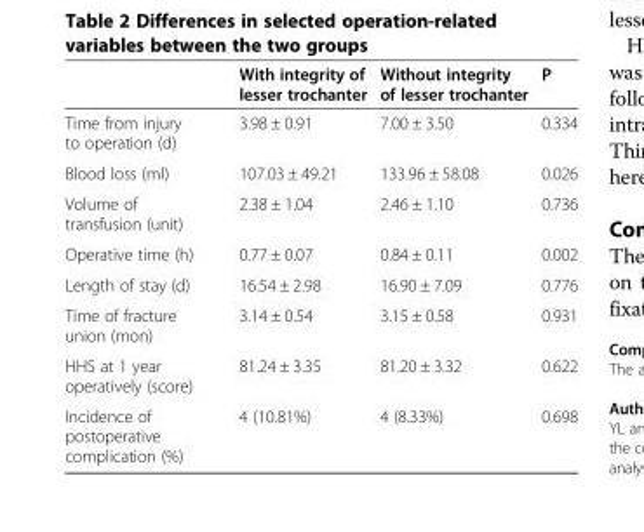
<table><thead><tr><td></td><td>With integrity of lesser trochanter</td><td>Without integrity of lesser trochanter</td><td>P</td></tr></thead><tbody><tr><td>Time from injury to operation (d)</td><td>3.98 ± 0.91</td><td>7.00 ± 3.50</td><td>0.334</td></tr><tr><td>Blood loss (ml)</td><td>107.03 ± 49.21</td><td>133.96 ± 58.08</td><td>0.026</td></tr><tr><td>Volume of transfusion (unit)</td><td>2.38 ± 1.04</td><td>2.46 ± 1.10</td><td>0.736</td></tr><tr><td>Operative time (h)</td><td>0.77 ± 0.07</td><td>0.84 ± 0.11</td><td>0.002</td></tr><tr><td>Length of stay (d)</td><td>16.54 ± 2.98</td><td>16.90 ± 7.09</td><td>0.776</td></tr><tr><td>Time of fracture union (mon)</td><td>3.14 ± 0.54</td><td>3.15 ± 0.58</td><td>0.931</td></tr><tr><td>HHS at 1 year operatively (score)</td><td>81.24 ± 3.35</td><td>81.20 ± 3.32</td><td>0.622</td></tr><tr><td>Incidence of postoperative complication (%)</td><td>4 (10.81%)</td><td>4 (8.33%)</td><td>0.698</td></tr></tbody></table>